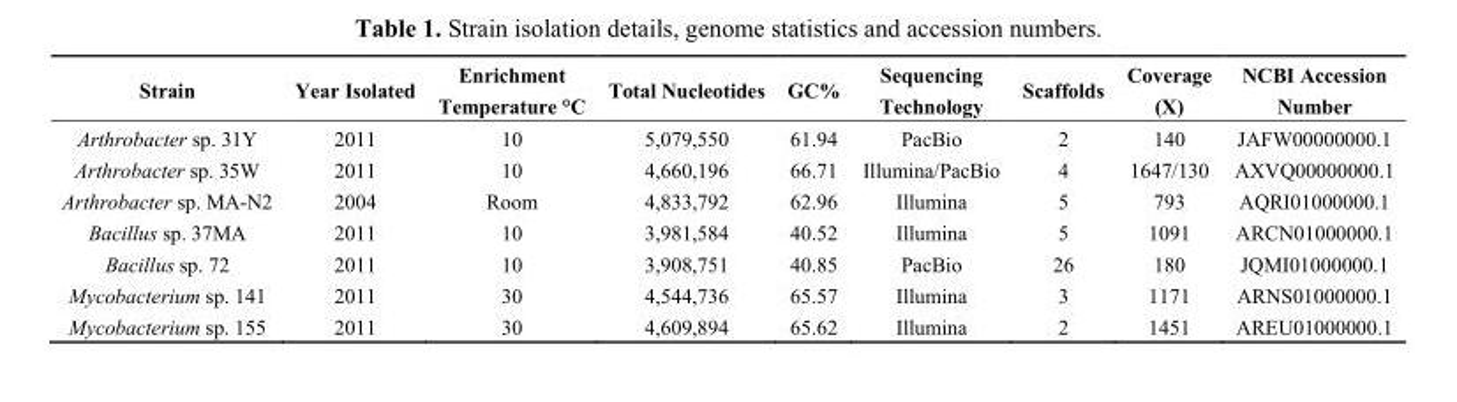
<table><thead><tr><td>Strain</td><td>Year Isolated</td><td>Enrichment Temperature °C</td><td>Total Nucleotides</td><td>GC%</td><td>Sequencing Technology</td><td>Scaffolds</td><td>Coverage (X)</td><td>NCBI Accession Number</td></tr></thead><tbody><tr><td>Arthrobacter sp. 31Y</td><td>2011</td><td>10</td><td>5,079,550</td><td>61.94</td><td>PacBio</td><td>2</td><td>140</td><td>JAFW00000000.1</td></tr><tr><td>Arthrobacter sp. 35W</td><td>2011</td><td>10</td><td>4,660,196</td><td>66.71</td><td>Illumina/PacBio</td><td>4</td><td>1647/130</td><td>AXVQ00000000.1</td></tr><tr><td>Arthrobacter sp. MA-N2</td><td>2004</td><td>Room</td><td>4,833,792</td><td>62.96</td><td>Illumina</td><td>5</td><td>793</td><td>AQRI01000000.1</td></tr><tr><td>Bacillus sp. 37MA</td><td>2011</td><td>10</td><td>3,981,584</td><td>40.52</td><td>Illumina</td><td>5</td><td>1091</td><td>ARCN01000000.1</td></tr><tr><td>Bacillus sp. 72</td><td>2011</td><td>10</td><td>3,908,751</td><td>40.85</td><td>PacBio</td><td>26</td><td>180</td><td>JQMI01000000.1</td></tr><tr><td>Mycobacterium sp. 141</td><td>2011</td><td>30</td><td>4,544,736</td><td>65.57</td><td>Illumina</td><td>3</td><td>1171</td><td>ARNS01000000.1</td></tr><tr><td>Mycobacterium sp. 155</td><td>2011</td><td>30</td><td>4,609,894</td><td>65.62</td><td>Illumina</td><td>2</td><td>1451</td><td>AREU01000000.1</td></tr></tbody></table>